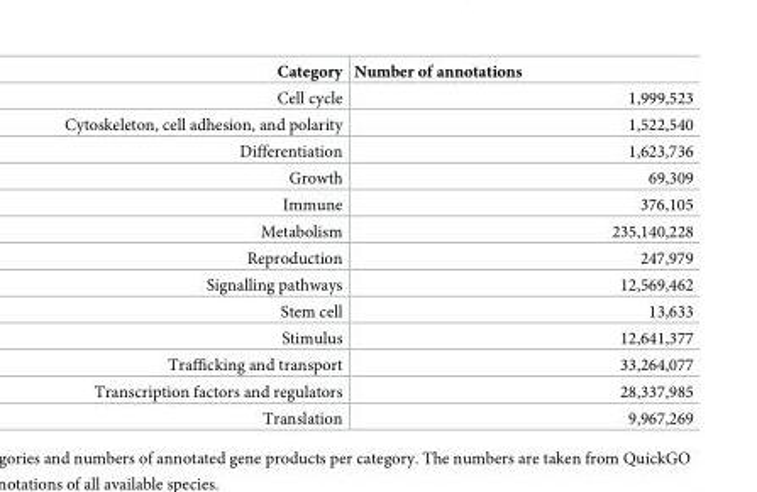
<table><thead><tr><td>Category</td><td>Number of annotations</td></tr></thead><tbody><tr><td>Cell cycle</td><td>1,999,523</td></tr><tr><td>Cytoskeleton, cell adhesion, and polarity</td><td>1,522,540</td></tr><tr><td>Differentiation</td><td>1,623,736</td></tr><tr><td>Growth</td><td>69,309</td></tr><tr><td>Immune</td><td>376,105</td></tr><tr><td>Metabolism</td><td>235,140,228</td></tr><tr><td>Reproduction</td><td>247,979</td></tr><tr><td>Signalling pathways</td><td>12,569,462</td></tr><tr><td>Stem cell</td><td>13,633</td></tr><tr><td>Stimulus</td><td>12,641,377</td></tr><tr><td>Trafficking and transport</td><td>33,264,077</td></tr><tr><td>Transcription factors and regulators</td><td>28,337,985</td></tr><tr><td>Translation</td><td>9,967,269</td></tr></tbody></table>